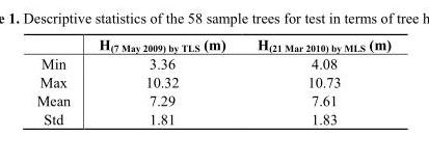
<table><thead><tr><td></td><td>H<sub>(7 May 2009) by TLS</sub> (m)</td><td>H<sub>(21 Mar 2010) by MLS</sub> (m)</td></tr></thead><tbody><tr><td>Min</td><td>3.36</td><td>4.08</td></tr><tr><td>Max</td><td>10.32</td><td>10.73</td></tr><tr><td>Mean</td><td>7.29</td><td>7.61</td></tr><tr><td>Std</td><td>1.81</td><td>1.83</td></tr></tbody></table>